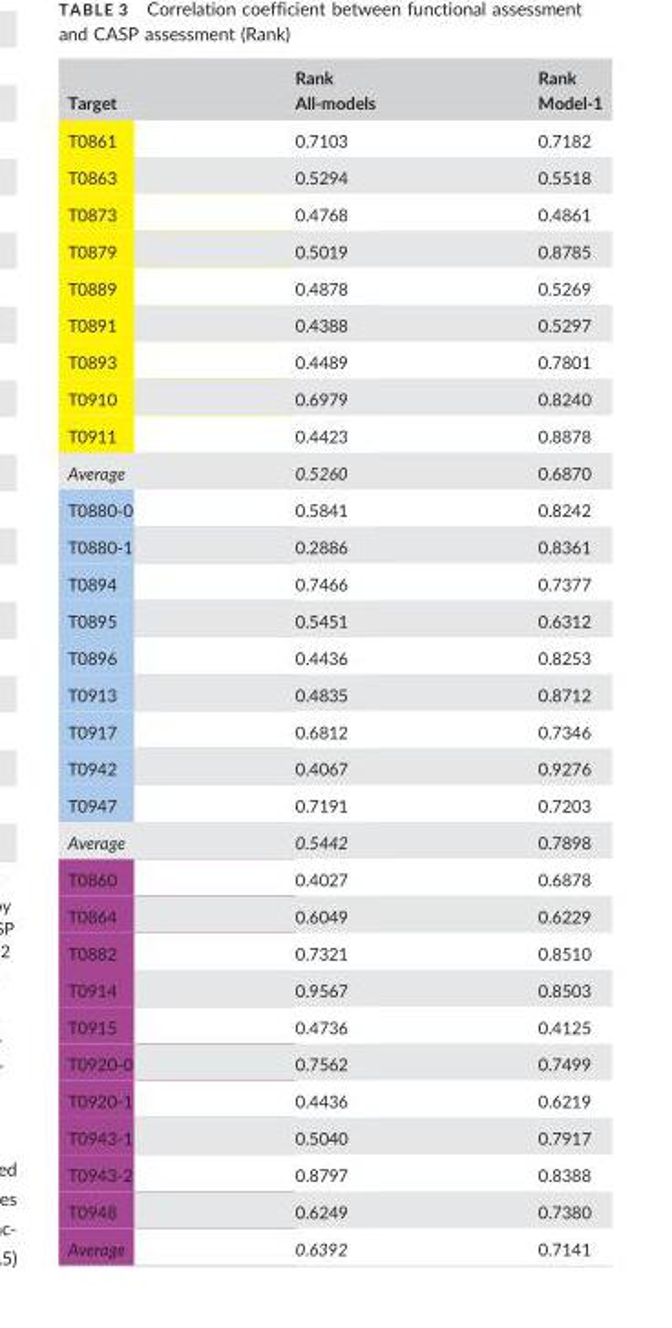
<table><thead><tr><td>Target</td><td>Rank All-models</td><td>Rank Model-1</td></tr></thead><tbody><tr><td>T0861</td><td>0.7103</td><td>0.7182</td></tr><tr><td>T0863</td><td>0.5294</td><td>0.5518</td></tr><tr><td>T0873</td><td>0.4768</td><td>0.4861</td></tr><tr><td>T0879</td><td>0.5019</td><td>0.8785</td></tr><tr><td>T0889</td><td>0.4878</td><td>0.5269</td></tr><tr><td>T0891</td><td>0.4388</td><td>0.5297</td></tr><tr><td>T0893</td><td>0.4489</td><td>0.7801</td></tr><tr><td>T0910</td><td>0.6979</td><td>0.8240</td></tr><tr><td>T0911</td><td>0.4423</td><td>0.8878</td></tr><tr><td>Average</td><td>0.5260</td><td>0.6870</td></tr><tr><td>T0880-0</td><td>0.5841</td><td>0.8242</td></tr><tr><td>T0880-1</td><td>0.2886</td><td>0.8361</td></tr><tr><td>T0894</td><td>0.7466</td><td>0.7377</td></tr><tr><td>T0895</td><td>0.5451</td><td>0.6312</td></tr><tr><td>T0896</td><td>0.4436</td><td>0.8253</td></tr><tr><td>T0913</td><td>0.4835</td><td>0.8712</td></tr><tr><td>T0917</td><td>0.6812</td><td>0.7346</td></tr><tr><td>T0942</td><td>0.4067</td><td>0.9276</td></tr><tr><td>T0947</td><td>0.7191</td><td>0.7203</td></tr><tr><td>Average</td><td>0.5442</td><td>0.7898</td></tr><tr><td>T0860</td><td>0.4027</td><td>0.6878</td></tr><tr><td>T0864</td><td>0.6049</td><td>0.6229</td></tr><tr><td>T0882</td><td>0.7321</td><td>0.8510</td></tr><tr><td>T0914</td><td>0.9567</td><td>0.8503</td></tr><tr><td>T0915</td><td>0.4736</td><td>0.4125</td></tr><tr><td>T0920-0</td><td>0.7562</td><td>0.7499</td></tr><tr><td>T0920-1</td><td>0.4436</td><td>0.6219</td></tr><tr><td>T0943-1</td><td>0.5040</td><td>0.7917</td></tr><tr><td>T0943-2</td><td>0.8797</td><td>0.8388</td></tr><tr><td>T0948</td><td>0.6249</td><td>0.7380</td></tr><tr><td>Average</td><td>0.6392</td><td>0.7141</td></tr></tbody></table>